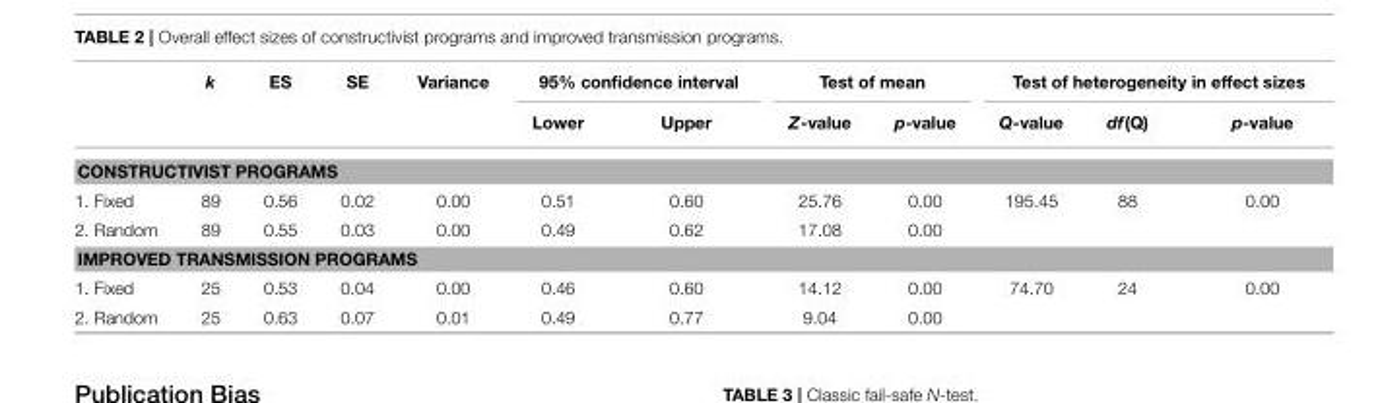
<table><thead><tr><td rowspan="2"></td><td rowspan="2">k</td><td rowspan="2">ES</td><td rowspan="2">SE</td><td rowspan="2">Variance</td><td colspan="2">95% confidence interval</td><td colspan="2">Test of mean</td><td colspan="3">Test of heterogeneity in effect sizes</td></tr><tr><td>Lower</td><td>Upper</td><td>Z-value</td><td>p-value</td><td>Q-value</td><td>df(Q)</td><td>p-value</td></tr></thead><tbody><tr><td colspan="12">CONSTRUCTIVIST PROGRAMS</td></tr><tr><td>1. Fixed</td><td>89</td><td>0.56</td><td>0.02</td><td>0.00</td><td>0.51</td><td>0.60</td><td>25.76</td><td>0.00</td><td>195.45</td><td>88</td><td>0.00</td></tr><tr><td>2. Random</td><td>89</td><td>0.55</td><td>0.03</td><td>0.00</td><td>0.49</td><td>0.62</td><td>17.08</td><td>0.00</td><td></td><td></td><td></td></tr><tr><td colspan="12">IMPROVED TRANSMISSION PROGRAMS</td></tr><tr><td>1. Fixed</td><td>25</td><td>0.53</td><td>0.04</td><td>0.00</td><td>0.46</td><td>0.60</td><td>14.12</td><td>0.00</td><td>74.70</td><td>24</td><td>0.00</td></tr><tr><td>2. Random</td><td>25</td><td>0.63</td><td>0.07</td><td>0.01</td><td>0.49</td><td>0.77</td><td>9.04</td><td>0.00</td><td></td><td></td><td></td></tr></tbody></table>